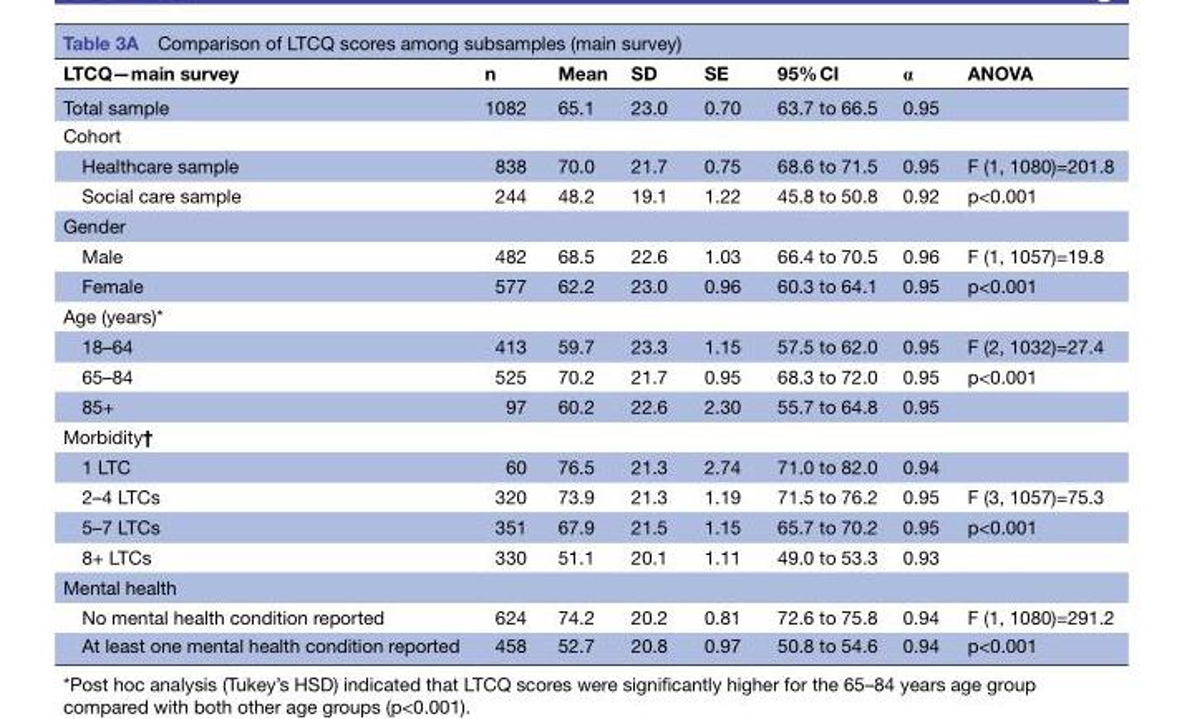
<table><thead><tr><td>LTCQ—main survey</td><td>n</td><td>Mean</td><td>SD</td><td>SE</td><td>95% CI</td><td>α</td><td>ANOVA</td></tr></thead><tbody><tr><td>Total sample</td><td>1082</td><td>65.1</td><td>23.0</td><td>0.70</td><td>63.7 to 66.5</td><td>0.95</td><td></td></tr><tr><td colspan="8">Cohort</td></tr><tr><td>Healthcare sample</td><td>838</td><td>70.0</td><td>21.7</td><td>0.75</td><td>68.6 to 71.5</td><td>0.95</td><td>F (1, 1080)=201.8</td></tr><tr><td>Social care sample</td><td>244</td><td>48.2</td><td>19.1</td><td>1.22</td><td>45.8 to 50.8</td><td>0.92</td><td>p&lt;0.001</td></tr><tr><td colspan="8">Gender</td></tr><tr><td>Male</td><td>482</td><td>68.5</td><td>22.6</td><td>1.03</td><td>66.4 to 70.5</td><td>0.96</td><td>F (1, 1057)=19.8</td></tr><tr><td>Female</td><td>577</td><td>62.2</td><td>23.0</td><td>0.96</td><td>60.3 to 64.1</td><td>0.95</td><td>p&lt;0.001</td></tr><tr><td colspan="8">Age (years)*</td></tr><tr><td>18–64</td><td>413</td><td>59.7</td><td>23.3</td><td>1.15</td><td>57.5 to 62.0</td><td>0.95</td><td>F (2, 1032)=27.4</td></tr><tr><td>65–84</td><td>525</td><td>70.2</td><td>21.7</td><td>0.95</td><td>68.3 to 72.0</td><td>0.95</td><td>p&lt;0.001</td></tr><tr><td>85+</td><td>97</td><td>60.2</td><td>22.6</td><td>2.30</td><td>55.7 to 64.8</td><td>0.95</td><td></td></tr><tr><td colspan="8">Morbidity†</td></tr><tr><td>1 LTC</td><td>60</td><td>76.5</td><td>21.3</td><td>2.74</td><td>71.0 to 82.0</td><td>0.94</td><td></td></tr><tr><td>2–4 LTCs</td><td>320</td><td>73.9</td><td>21.3</td><td>1.19</td><td>71.5 to 76.2</td><td>0.95</td><td>F (3, 1057)=75.3</td></tr><tr><td>5–7 LTCs</td><td>351</td><td>67.9</td><td>21.5</td><td>1.15</td><td>65.7 to 70.2</td><td>0.95</td><td>p&lt;0.001</td></tr><tr><td>8+ LTCs</td><td>330</td><td>51.1</td><td>20.1</td><td>1.11</td><td>49.0 to 53.3</td><td>0.93</td><td></td></tr><tr><td colspan="8">Mental health</td></tr><tr><td>No mental health condition reported</td><td>624</td><td>74.2</td><td>20.2</td><td>0.81</td><td>72.6 to 75.8</td><td>0.94</td><td>F (1, 1080)=291.2</td></tr><tr><td>At least one mental health condition reported</td><td>458</td><td>52.7</td><td>20.8</td><td>0.97</td><td>50.8 to 54.6</td><td>0.94</td><td>p&lt;0.001</td></tr></tbody></table>